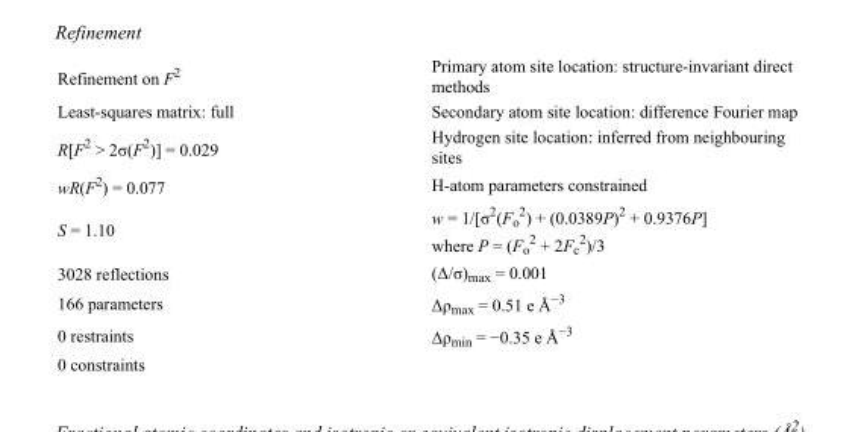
<table><tbody><tr><td>Refinement on F<sup>2</sup></td><td>Primary atom site location: structure-invariant direct methods</td></tr><tr><td>Least-squares matrix: full</td><td>Secondary atom site location: difference Fourier map</td></tr><tr><td>R[F<sup>2</sup> &gt; 2σ(F<sup>2</sup>)] = 0.029</td><td>Hydrogen site location: inferred from neighbouring sites</td></tr><tr><td>wR(F<sup>2</sup>) = 0.077</td><td>H-atom parameters constrained</td></tr><tr><td>S = 1.10</td><td>w = 1/[σ<sup>2</sup>(F<sub>o</sub> <sup>2</sup>) + (0.0389P)<sup>2</sup> + 0.9376P] where P = (F<sub>o</sub> <sup>2</sup> + 2F<sub>c</sub> <sup>2</sup>)/3</td></tr><tr><td>3028 reflections</td><td>(Δ/σ)<sub>max</sub> = 0.001</td></tr><tr><td>166 parameters</td><td>Δρ<sub>max</sub> = 0.51 e Å<sup>−3</sup></td></tr><tr><td>0 restraints</td><td>Δρ<sub>min</sub> = −0.35 e Å<sup>−3</sup></td></tr><tr><td>0 constraints</td><td></td></tr></tbody></table>